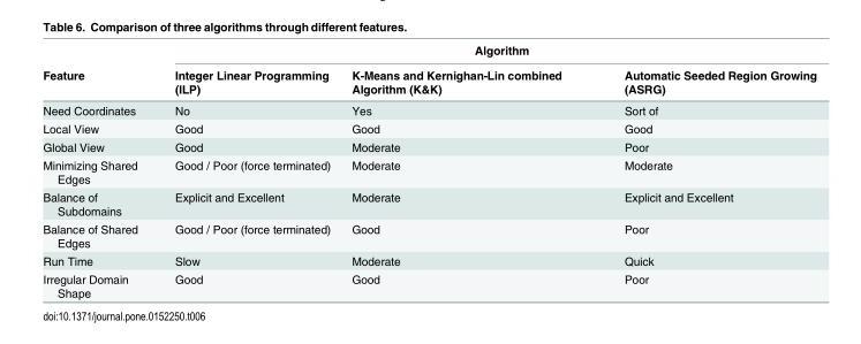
<table><thead><tr><td rowspan="2">Feature</td><td colspan="3">Algorithm</td></tr><tr><td>Integer Linear Programming (ILP)</td><td>K-Means and Kernighan-Lin combined Algorithm (K&amp;K)</td><td>Automatic Seeded Region Growing (ASRG)</td></tr></thead><tbody><tr><td>Need Coordinates</td><td>No</td><td>Yes</td><td>Sort of</td></tr><tr><td>Local View</td><td>Good</td><td>Good</td><td>Good</td></tr><tr><td>Global View</td><td>Good</td><td>Moderate</td><td>Poor</td></tr><tr><td>Minimizing Shared Edges</td><td>Good / Poor (force terminated)</td><td>Moderate</td><td>Moderate</td></tr><tr><td>Balance of Subdomains</td><td>Explicit and Excellent</td><td>Moderate</td><td>Explicit and Excellent</td></tr><tr><td>Balance of Shared Edges</td><td>Good / Poor (force terminated)</td><td>Good</td><td>Poor</td></tr><tr><td>Run Time</td><td>Slow</td><td>Moderate</td><td>Quick</td></tr><tr><td>Irregular Domain Shape</td><td>Good</td><td>Good</td><td>Poor</td></tr></tbody></table>